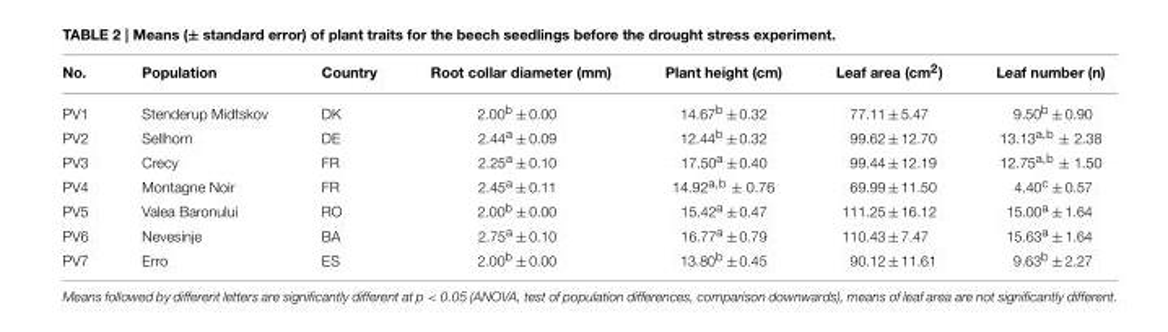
<table><thead><tr><td>No.</td><td>Population</td><td>Country</td><td>Root collar diameter (mm)</td><td>Plant height (cm)</td><td>Leaf area (cm<sup>2</sup>)</td><td>Leaf number (n)</td></tr></thead><tbody><tr><td>PV1</td><td>Stenderup Midtskov</td><td>DK</td><td>2.00<sup>b</sup> ± 0.00</td><td>14.67<sup>b</sup> ± 0.32</td><td>77.11 ± 5.47</td><td>9.50<sup>b</sup> ± 0.90</td></tr><tr><td>PV2</td><td>Sellhorn</td><td>DE</td><td>2.44<sup>a</sup> ± 0.09</td><td>12.44<sup>b</sup> ± 0.32</td><td>99.62 ± 12.70</td><td>13.13<sup>a,b</sup> ± 2.38</td></tr><tr><td>PV3</td><td>Crecy</td><td>FR</td><td>2.25<sup>a</sup> ± 0.10</td><td>17.50<sup>a</sup> ± 0.40</td><td>99.44 ± 12.19</td><td>12.75<sup>a,b</sup> ± 1.50</td></tr><tr><td>PV4</td><td>Montagne Noir</td><td>FR</td><td>2.45<sup>a</sup> ± 0.11</td><td>14.92<sup>a,b</sup> ± 0.76</td><td>69.99 ± 11.50</td><td>4.40<sup>c</sup> ± 0.57</td></tr><tr><td>PV5</td><td>Valea Baronului</td><td>RO</td><td>2.00<sup>b</sup> ± 0.00</td><td>15.42<sup>a</sup> ± 0.47</td><td>111.25 ± 16.12</td><td>15.00<sup>a</sup> ± 1.64</td></tr><tr><td>PV6</td><td>Nevesinje</td><td>BA</td><td>2.75<sup>a</sup> ± 0.10</td><td>16.77<sup>a</sup> ± 0.79</td><td>110.43 ± 7.47</td><td>15.63<sup>a</sup> ± 1.64</td></tr><tr><td>PV7</td><td>Erro</td><td>ES</td><td>2.00<sup>b</sup> ± 0.00</td><td>13.80<sup>b</sup> ± 0.45</td><td>90.12 ± 11.61</td><td>9.63<sup>b</sup> ± 2.27</td></tr></tbody></table>